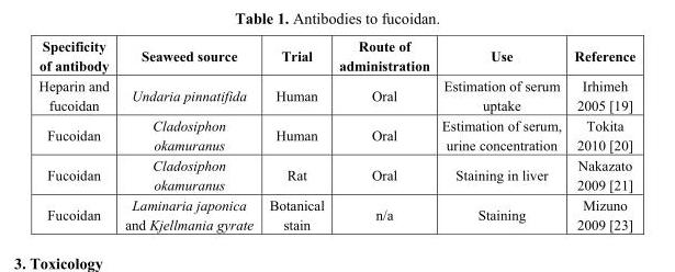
<table><thead><tr><td>Specificity of antibody</td><td>Seaweed source</td><td>Trial</td><td>Route of administration</td><td>Use</td><td>Reference</td></tr></thead><tbody><tr><td>Heparin and fucoidan</td><td>Undaria pinnatifida</td><td>Human</td><td>Oral</td><td>Estimation of serum uptake</td><td>Irhimeh 2005 [19]</td></tr><tr><td>Fucoidan</td><td>Cladosiphon okamuranus</td><td>Human</td><td>Oral</td><td>Estimation of serum, urine concentration</td><td>Tokita 2010 [20]</td></tr><tr><td>Fucoidan</td><td>Cladosiphon okamuranus</td><td>Rat</td><td>Oral</td><td>Staining in liver</td><td>Nakazato 2009 [21]</td></tr><tr><td>Fucoidan</td><td>Laminaria japonica and Kjellmania gyrate</td><td>Botanical stain</td><td>n/a</td><td>Staining</td><td>Mizuno 2009 [23]</td></tr></tbody></table>